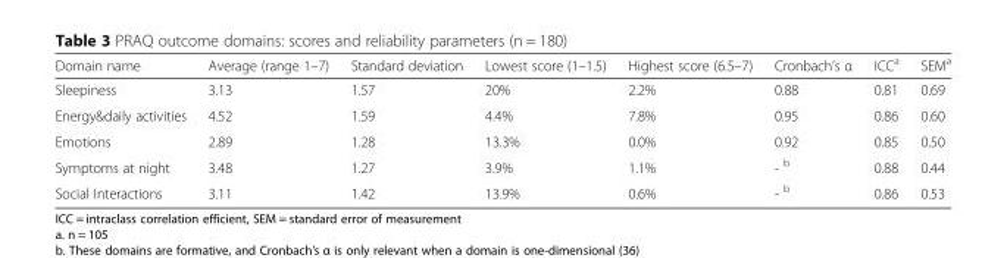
<table><thead><tr><td>Domain name</td><td>Average (range 1–7)</td><td>Standard deviation</td><td>Lowest score (1–1.5)</td><td>Highest score (6.5–7)</td><td>Cronbach’s α</td><td>ICC<sup>a</sup></td><td>SEM<sup>a</sup></td></tr></thead><tbody><tr><td>Sleepiness</td><td>3.13</td><td>1.57</td><td>20%</td><td>2.2%</td><td>0.88</td><td>0.81</td><td>0.69</td></tr><tr><td>Energy&amp;daily activities</td><td>4.52</td><td>1.59</td><td>4.4%</td><td>7.8%</td><td>0.95</td><td>0.86</td><td>0.60</td></tr><tr><td>Emotions</td><td>2.89</td><td>1.28</td><td>13.3%</td><td>0.0%</td><td>0.92</td><td>0.85</td><td>0.50</td></tr><tr><td>Symptoms at night</td><td>3.48</td><td>1.27</td><td>3.9%</td><td>1.1%</td><td>- <sup>b</sup></td><td>0.88</td><td>0.44</td></tr><tr><td>Social Interactions</td><td>3.11</td><td>1.42</td><td>13.9%</td><td>0.6%</td><td>- <sup>b</sup></td><td>0.86</td><td>0.53</td></tr></tbody></table>